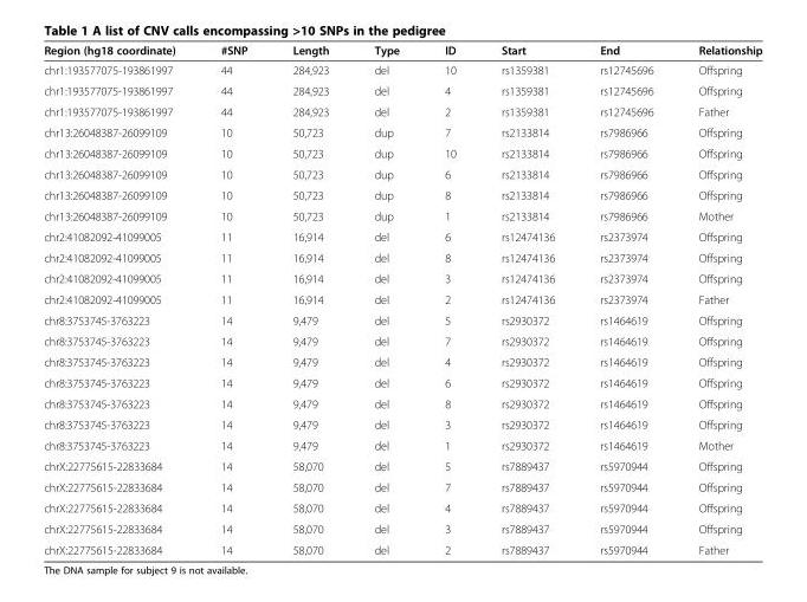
<table><thead><tr><td>Region (hg18 coordinate)</td><td>#SNP</td><td>Length</td><td>Type</td><td>ID</td><td>Start</td><td>End</td><td>Relationship</td></tr></thead><tbody><tr><td>chr1:193577075-193861997</td><td>44</td><td>284,923</td><td>del</td><td>10</td><td>rs1359381</td><td>rs12745696</td><td>Offspring</td></tr><tr><td>chr1:193577075-193861997</td><td>44</td><td>284,923</td><td>del</td><td>4</td><td>rs1359381</td><td>rs12745696</td><td>Offspring</td></tr><tr><td>chr1:193577075-193861997</td><td>44</td><td>284,923</td><td>del</td><td>2</td><td>rs1359381</td><td>rs12745696</td><td>Father</td></tr><tr><td>chr13:26048387-26099109</td><td>10</td><td>50,723</td><td>dup</td><td>7</td><td>rs2133814</td><td>rs7986966</td><td>Offspring</td></tr><tr><td>chr13:26048387-26099109</td><td>10</td><td>50,723</td><td>dup</td><td>10</td><td>rs2133814</td><td>rs7986966</td><td>Offspring</td></tr><tr><td>chr13:26048387-26099109</td><td>10</td><td>50,723</td><td>dup</td><td>6</td><td>rs2133814</td><td>rs7986966</td><td>Offspring</td></tr><tr><td>chr13:26048387-26099109</td><td>10</td><td>50,723</td><td>dup</td><td>8</td><td>rs2133814</td><td>rs7986966</td><td>Offspring</td></tr><tr><td>chr13:26048387-26099109</td><td>10</td><td>50,723</td><td>dup</td><td>1</td><td>rs2133814</td><td>rs7986966</td><td>Mother</td></tr><tr><td>chr2:41082092-41099005</td><td>11</td><td>16,914</td><td>del</td><td>6</td><td>rs12474136</td><td>rs2373974</td><td>Offspring</td></tr><tr><td>chr2:41082092-41099005</td><td>11</td><td>16,914</td><td>del</td><td>8</td><td>rs12474136</td><td>rs2373974</td><td>Offspring</td></tr><tr><td>chr2:41082092-41099005</td><td>11</td><td>16,914</td><td>del</td><td>3</td><td>rs12474136</td><td>rs2373974</td><td>Offspring</td></tr><tr><td>chr2:41082092-41099005</td><td>11</td><td>16,914</td><td>del</td><td>2</td><td>rs12474136</td><td>rs2373974</td><td>Father</td></tr><tr><td>chr8:3753745-3763223</td><td>14</td><td>9,479</td><td>del</td><td>5</td><td>rs2930372</td><td>rs1464619</td><td>Offspring</td></tr><tr><td>chr8:3753745-3763223</td><td>14</td><td>9,479</td><td>del</td><td>7</td><td>rs2930372</td><td>rs1464619</td><td>Offspring</td></tr><tr><td>chr8:3753745-3763223</td><td>14</td><td>9,479</td><td>del</td><td>4</td><td>rs2930372</td><td>rs1464619</td><td>Offspring</td></tr><tr><td>chr8:3753745-3763223</td><td>14</td><td>9,479</td><td>del</td><td>6</td><td>rs2930372</td><td>rs1464619</td><td>Offspring</td></tr><tr><td>chr8:3753745-3763223</td><td>14</td><td>9,479</td><td>del</td><td>8</td><td>rs2930372</td><td>rs1464619</td><td>Offspring</td></tr><tr><td>chr8:3753745-3763223</td><td>14</td><td>9,479</td><td>del</td><td>3</td><td>rs2930372</td><td>rs1464619</td><td>Offspring</td></tr><tr><td>chr8:3753745-3763223</td><td>14</td><td>9,479</td><td>del</td><td>1</td><td>rs2930372</td><td>rs1464619</td><td>Mother</td></tr><tr><td>chrX:22775615-22833684</td><td>14</td><td>58,070</td><td>del</td><td>5</td><td>rs7889437</td><td>rs5970944</td><td>Offspring</td></tr><tr><td>chrX:22775615-22833684</td><td>14</td><td>58,070</td><td>del</td><td>7</td><td>rs7889437</td><td>rs5970944</td><td>Offspring</td></tr><tr><td>chrX:22775615-22833684</td><td>14</td><td>58,070</td><td>del</td><td>4</td><td>rs7889437</td><td>rs5970944</td><td>Offspring</td></tr><tr><td>chrX:22775615-22833684</td><td>14</td><td>58,070</td><td>del</td><td>3</td><td>rs7889437</td><td>rs5970944</td><td>Offspring</td></tr><tr><td>chrX:22775615-22833684</td><td>14</td><td>58,070</td><td>del</td><td>2</td><td>rs7889437</td><td>rs5970944</td><td>Father</td></tr></tbody></table>